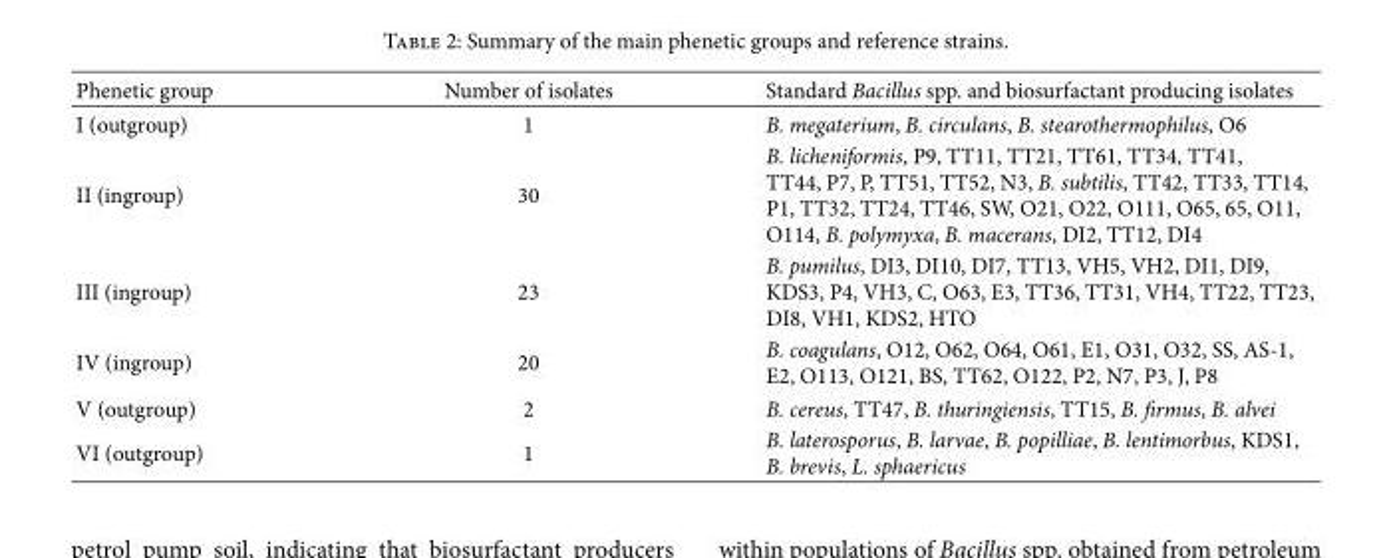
<table><thead><tr><td>Phenetic group</td><td>Number of isolates</td><td>Standard Bacillus spp. and biosurfactant producing isolates</td></tr></thead><tbody><tr><td>I (outgroup)</td><td>1</td><td>B. megaterium, B. circulans, B. stearothermophilus, O6</td></tr><tr><td>II (ingroup)</td><td>30</td><td>B. licheniformis, P9, TT11, TT21, TT61, TT34, TT41, TT44, P7, P, TT51, TT52, N3, B. subtilis, TT42, TT33, TT14, P1, TT32, TT24, TT46, SW, O21, O22, O111, O65, 65, O11, O114, B. polymyxa, B. macerans, DI2, TT12, DI4</td></tr><tr><td>III (ingroup)</td><td>23</td><td>B. pumilus, DI3, DI10, DI7, TT13, VH5, VH2, DI1, DI9, KDS3, P4, VH3, C, O63, E3, TT36, TT31, VH4, TT22, TT23, DI8, VH1, KDS2, HTO</td></tr><tr><td>IV (ingroup)</td><td>20</td><td>B. coagulans, O12, O62, O64, O61, E1, O31, O32, SS, AS-1, E2, O113, O121, BS, TT62, O122, P2, N7, P3, J, P8</td></tr><tr><td>V (outgroup)</td><td>2</td><td>B. cereus, TT47, B. thuringiensis, TT15, B. �rmus, B. alvei</td></tr><tr><td>VI (outgroup)</td><td>1</td><td>B. laterosporus, B. larvae, B. popilliae, B. lentimorbus, KDS1, B. brevis, L. sphaericus</td></tr></tbody></table>